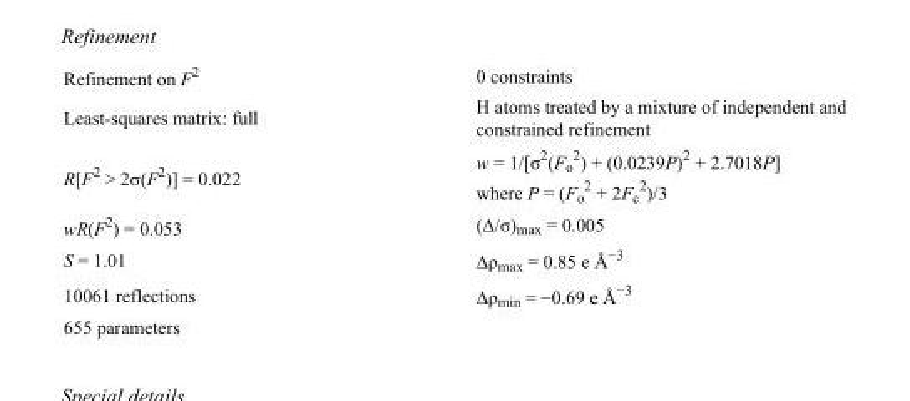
<table><tbody><tr><td>Refinement on F<sup>2</sup></td><td>0 constraints</td></tr><tr><td>Least-squares matrix: full</td><td>H atoms treated by a mixture of independent and constrained refinement</td></tr><tr><td>R[F<sup>2</sup> &gt; 2σ(F<sup>2</sup>)] = 0.022</td><td>w = 1/[σ<sup>2</sup>(F<sub>o</sub> <sup>2</sup>) + (0.0239P)<sup>2</sup> + 2.7018P] where P = (F<sub>o</sub> <sup>2</sup> + 2F<sub>c</sub> <sup>2</sup>)/3</td></tr><tr><td>wR(F<sup>2</sup>) = 0.053</td><td>(Δ/σ)<sub>max</sub> = 0.005</td></tr><tr><td>S = 1.01</td><td>Δρ<sub>max</sub> = 0.85 e Å<sup>−3</sup></td></tr><tr><td>10061 reflections</td><td>Δρ<sub>min</sub> = −0.69 e Å<sup>−3</sup></td></tr><tr><td>655 parameters</td><td></td></tr></tbody></table>